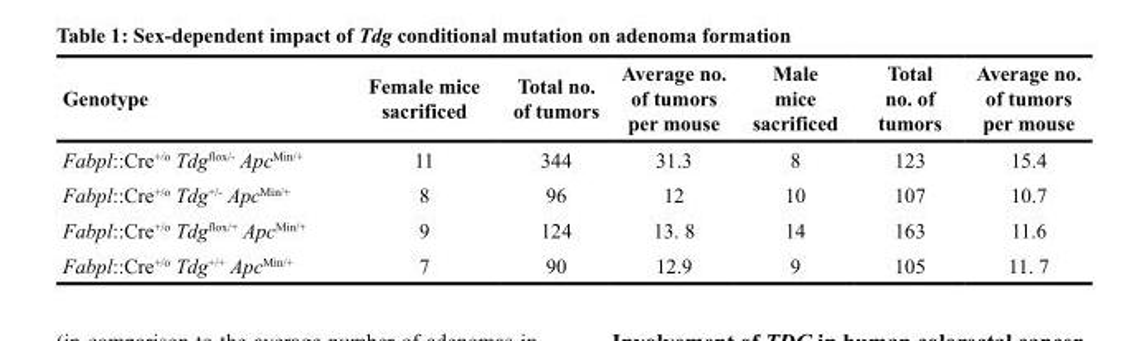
<table><thead><tr><td>Genotype</td><td>Female mice sacrificed</td><td>Total no. of tumors</td><td>Average no. of tumors per mouse</td><td>Male mice sacrificed</td><td>Total no. of tumors</td><td>Average no. of tumors per mouse</td></tr></thead><tbody><tr><td>Fabpl::Cre<sup>+/o</sup> Tdg<sup>flox/-</sup> Apc<sup>Min/+</sup></td><td>11</td><td>344</td><td>31.3</td><td>8</td><td>123</td><td>15.4</td></tr><tr><td>Fabpl::Cre<sup>+/o</sup> Tdg<sup>+/-</sup> Apc<sup>Min/+</sup></td><td>8</td><td>96</td><td>12</td><td>10</td><td>107</td><td>10.7</td></tr><tr><td>Fabpl::Cre<sup>+/o</sup> Tdg<sup>flox/+</sup> Apc<sup>Min/+</sup></td><td>9</td><td>124</td><td>13. 8</td><td>14</td><td>163</td><td>11.6</td></tr><tr><td>Fabpl::Cre<sup>+/o</sup> Tdg<sup>+/+</sup> Apc<sup>Min/+</sup></td><td>7</td><td>90</td><td>12.9</td><td>9</td><td>105</td><td>11. 7</td></tr></tbody></table>